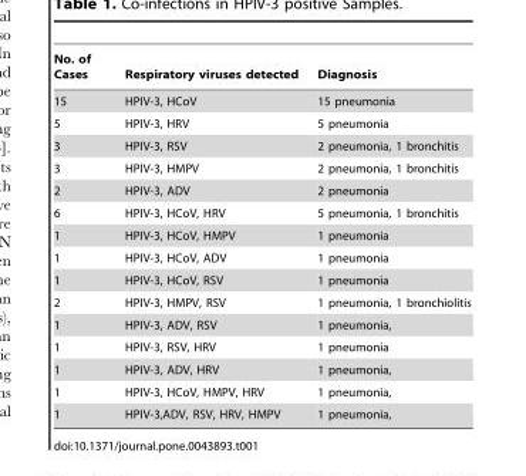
<table><thead><tr><td>No. of Cases</td><td>Respiratory viruses detected</td><td>Diagnosis</td></tr></thead><tbody><tr><td>15</td><td>HPIV-3, HCoV</td><td>15 pneumonia</td></tr><tr><td>5</td><td>HPIV-3, HRV</td><td>5 pneumonia</td></tr><tr><td>3</td><td>HPIV-3, RSV</td><td>2 pneumonia, 1 bronchitis</td></tr><tr><td>3</td><td>HPIV-3, HMPV</td><td>2 pneumonia, 1 bronchitis</td></tr><tr><td>2</td><td>HPIV-3, ADV</td><td>2 pneumonia</td></tr><tr><td>6</td><td>HPIV-3, HCoV, HRV</td><td>5 pneumonia, 1 bronchitis</td></tr><tr><td>1</td><td>HPIV-3, HCoV, HMPV</td><td>1 pneumonia</td></tr><tr><td>1</td><td>HPIV-3, HCoV, ADV</td><td>1 pneumonia</td></tr><tr><td>1</td><td>HPIV-3, HCoV, RSV</td><td>1 pneumonia</td></tr><tr><td>2</td><td>HPIV-3, HMPV, RSV</td><td>1 pneumonia, 1 bronchiolitis</td></tr><tr><td>1</td><td>HPIV-3, ADV, RSV</td><td>1 pneumonia,</td></tr><tr><td>1</td><td>HPIV-3, RSV, HRV</td><td>1 pneumonia</td></tr><tr><td>1</td><td>HPIV-3, ADV, HRV</td><td>1 pneumonia,</td></tr><tr><td>1</td><td>HPIV-3, HCoV, HMPV, HRV</td><td>1 pneumonia,</td></tr><tr><td>1</td><td>HPIV-3,ADV, RSV, HRV, HMPV</td><td>1 pneumonia,</td></tr></tbody></table>